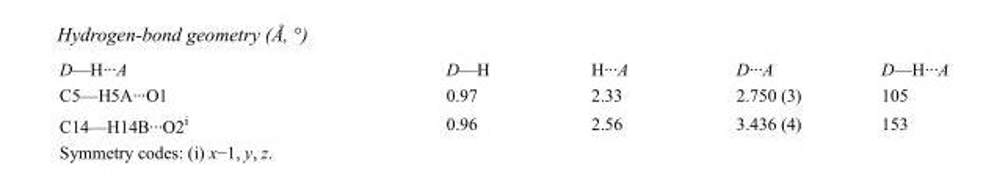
<table><tbody><tr><td>D—H···A</td><td>D—H</td><td>H···A</td><td>D···A</td><td>D—H···A</td></tr><tr><td>C5—H5A···O1</td><td>0.97</td><td>2.33</td><td>2.750 (3)</td><td>105</td></tr><tr><td>C14—H14B···O2<sup>i</sup></td><td>0.96</td><td>2.56</td><td>3.436 (4)</td><td>153</td></tr></tbody></table>